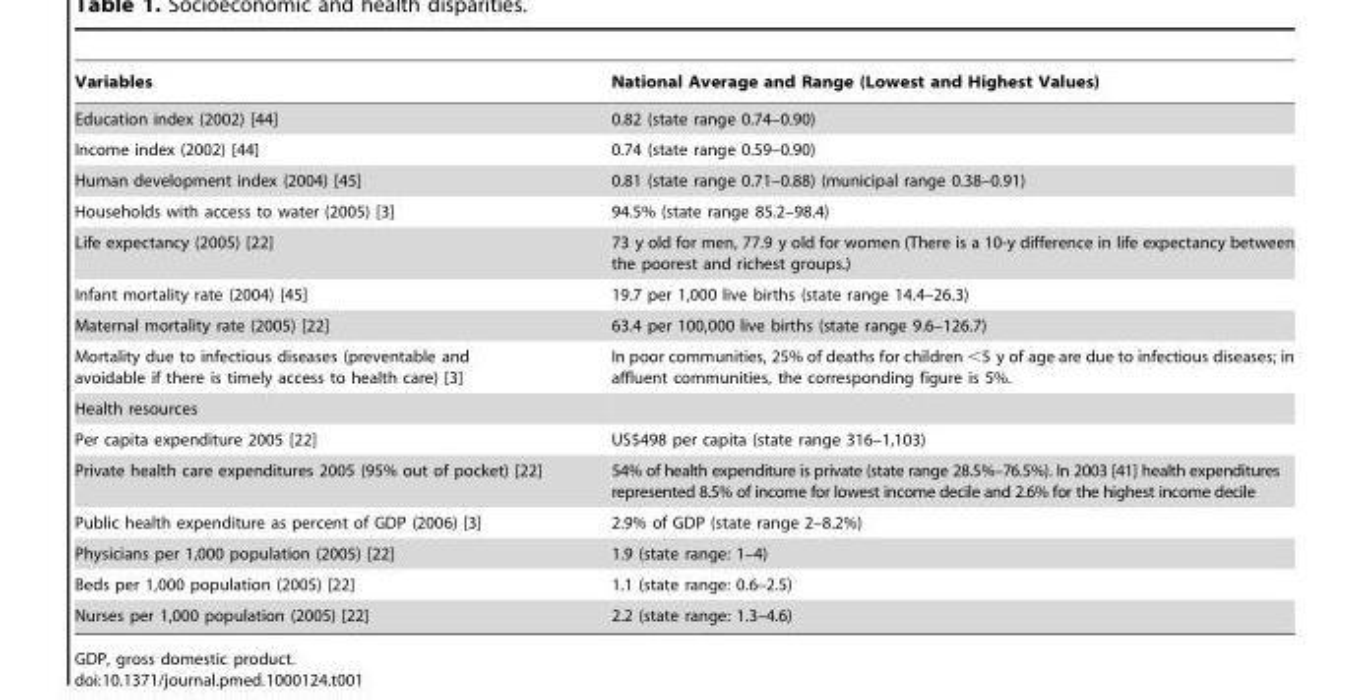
<table><thead><tr><td>Variables</td><td>National Average and Range (Lowest and Highest Values)</td></tr></thead><tbody><tr><td>Education index (2002) [44]</td><td>0.82 (state range 0.74–0.90)</td></tr><tr><td>Income index (2002) [44]</td><td>0.74 (state range 0.59–0.90)</td></tr><tr><td>Human development index (2004) [45]</td><td>0.81 (state range 0.71–0.88) (municipal range 0.38–0.91)</td></tr><tr><td>Households with access to water (2005) [3]</td><td>94.5% (state range 85.2–98.4)</td></tr><tr><td>Life expectancy (2005) [22]</td><td>73 y old for men, 77.9 y old for women (There is a 10-y difference in life expectancy between the poorest and richest groups.)</td></tr><tr><td>Infant mortality rate (2004) [45]</td><td>19.7 per 1,000 live births (state range 14.4–26.3)</td></tr><tr><td>Maternal mortality rate (2005) [22]</td><td>63.4 per 100,000 live births (state range 9.6–126.7)</td></tr><tr><td>Mortality due to infectious diseases (preventable and avoidable if there is timely access to health care) [3]</td><td>In poor communities, 25% of deaths for children &lt;5 y of age are due to infectious diseases; in affluent communities, the corresponding figure is 5%.</td></tr><tr><td colspan="2">Health resources</td></tr><tr><td>Per capita expenditure 2005 [22]</td><td>US$498 per capita (state range 316–1,103)</td></tr><tr><td>Private health care expenditures 2005 (95% out of pocket) [22]</td><td>54% of health expenditure is private (state range 28.5%–76.5%). In 2003 [41] health expenditures represented 8.5% of income for lowest income decile and 2.6% for the highest income decile</td></tr><tr><td>Public health expenditure as percent of GDP (2006) [3]</td><td>2.9% of GDP (state range 2–8.2%)</td></tr><tr><td>Physicians per 1,000 population (2005) [22]</td><td>1.9 (state range: 1–4)</td></tr><tr><td>Beds per 1,000 population (2005) [22]</td><td>1.1 (state range: 0.6–2.5)</td></tr><tr><td>Nurses per 1,000 population (2005) [22]</td><td>2.2 (state range: 1.3–4.6)</td></tr></tbody></table>